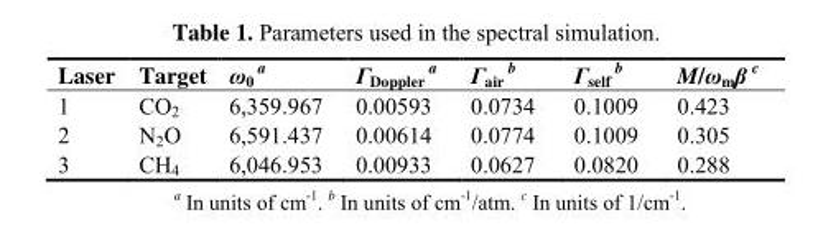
<table><thead><tr><td>Laser</td><td>Target</td><td>ω<sub>0</sub> <sup>a</sup></td><td>ГDoppler a</td><td>Гair b</td><td>Гself b</td><td>M/ω<sub>m</sub>β <sup>c</sup></td></tr></thead><tbody><tr><td>1</td><td>CO<sub>2</sub></td><td>6,359.967</td><td>0.00593</td><td>0.0734</td><td>0.1009</td><td>0.423</td></tr><tr><td>2</td><td>N<sub>2</sub>O</td><td>6,591.437</td><td>0.00614</td><td>0.0774</td><td>0.1009</td><td>0.305</td></tr><tr><td>3</td><td>CH<sub>4</sub></td><td>6,046.953</td><td>0.00933</td><td>0.0627</td><td>0.0820</td><td>0.288</td></tr></tbody></table>